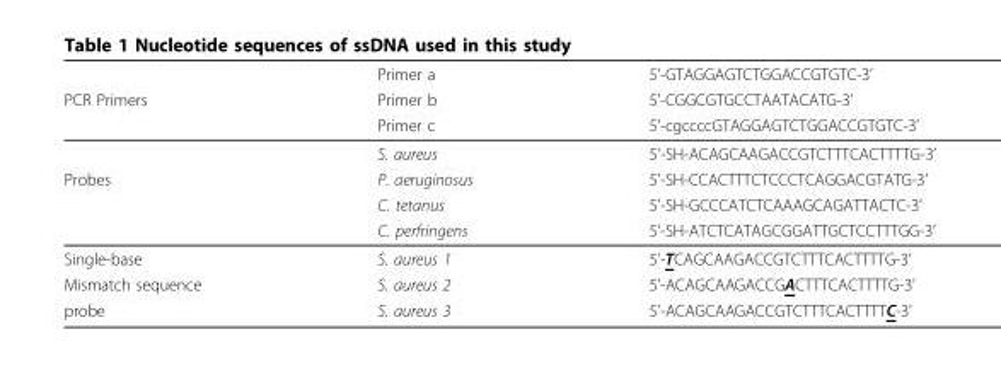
<table><thead><tr><td rowspan="3">PCR Primers</td><td rowspan="3">Primer a Primer b Primer c</td><td rowspan="3">5’-GTAGGAGTCTGGACCGTGTC-3’ 5’-CGGCGTGCCTAATACATG-3’ 5’-cgccccGTAGGAGTCTGGACCGTGTC-3’</td></tr><tr></tr><tr></tr></thead><tbody><tr><td></td><td>S. aureus</td><td>5’-SH-ACAGCAAGACCGTCTTTCACTTTTG-3’</td></tr><tr><td rowspan="3">Probes</td><td>P. aeruginosus</td><td>5’-SH-CCACTTTCTCCCTCAGGACGTATG-3’</td></tr><tr><td>C. tetanus</td><td>5’-SH-GCCCATCTCAAAGCAGATTACTC-3’</td></tr><tr><td>C. perfringens</td><td>5’-SH-ATCTCATAGCGGATTGCTCCTTTGG-3’</td></tr><tr><td>Single-base</td><td>S. aureus 1</td><td>5’-TCAGCAAGACCGTCTTTCACTTTTG-3’</td></tr><tr><td>Mismatch sequence</td><td>S. aureus 2</td><td>5’-ACAGCAAGACCGACTTTCACTTTTG-3’</td></tr><tr><td>probe</td><td>S. aureus 3</td><td>5’-ACAGCAAGACCGTCTTTCACTTTTC-3’</td></tr></tbody></table>